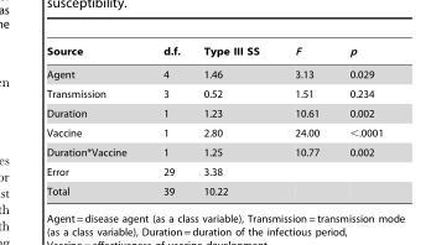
<table><thead><tr><td>Source</td><td>d.f.</td><td>Type III SS</td><td>F</td><td>p</td></tr></thead><tbody><tr><td>Agent</td><td>4</td><td>1.46</td><td>3.13</td><td>0.029</td></tr><tr><td>Transmission</td><td>3</td><td>0.52</td><td>1.51</td><td>0.234</td></tr><tr><td>Duration</td><td>1</td><td>1.23</td><td>10.61</td><td>0.002</td></tr><tr><td>Vaccine</td><td>1</td><td>2.80</td><td>24.00</td><td>&lt;.0001</td></tr><tr><td>Duration*Vaccine</td><td>1</td><td>1.25</td><td>10.77</td><td>0.002</td></tr><tr><td>Error</td><td>29</td><td>3.38</td><td></td><td></td></tr><tr><td>Total</td><td>39</td><td>10.22</td><td></td><td></td></tr></tbody></table>